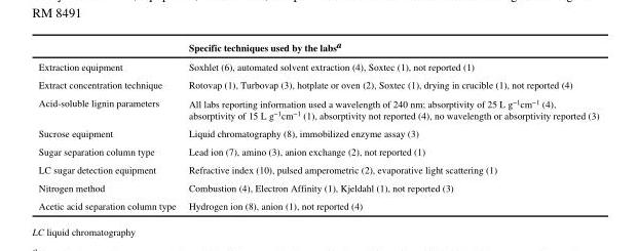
<table><thead><tr><td></td><td>Specific techniques used by the labs<sup>a</sup></td></tr></thead><tbody><tr><td>Extraction equipment</td><td>Soxhlet (6), automated solvent extraction (4), Soxtec (1), not reported (1)</td></tr><tr><td>Extract concentration technique</td><td>Rotovap (1), Turbovap (3), hotplate or oven (2), Soxtec (1), drying in crucible (1), not reported (4)</td></tr><tr><td>Acid-soluble lignin parameters</td><td>All labs reporting information used a wavelength of 240 nm; absorptivity of 25 L g<sup>−1</sup>cm<sup>−1</sup> (4), absorptivity of 15 L g<sup>−1</sup>cm<sup>−1</sup> (1), absorptivity not reported (4), no wavelength or absorptivity reported (3)</td></tr><tr><td>Sucrose equipment</td><td>Liquid chromatography (8), immobilized enzyme assay (3)</td></tr><tr><td>Sugar separation column type</td><td>Lead ion (7), amino (3), anion exchange (2), not reported (1)</td></tr><tr><td>LC sugar detection equipment</td><td>Refractive index (10), pulsed amperometric (2), evaporative light scattering (1)</td></tr><tr><td>Nitrogen method</td><td>Combustion (4), Electron Affinity (1), Kjeldahl (1), not reported (3)</td></tr><tr><td>Acetic acid separation column type</td><td>Hydrogen ion (8), anion (1), not reported (4)</td></tr></tbody></table>